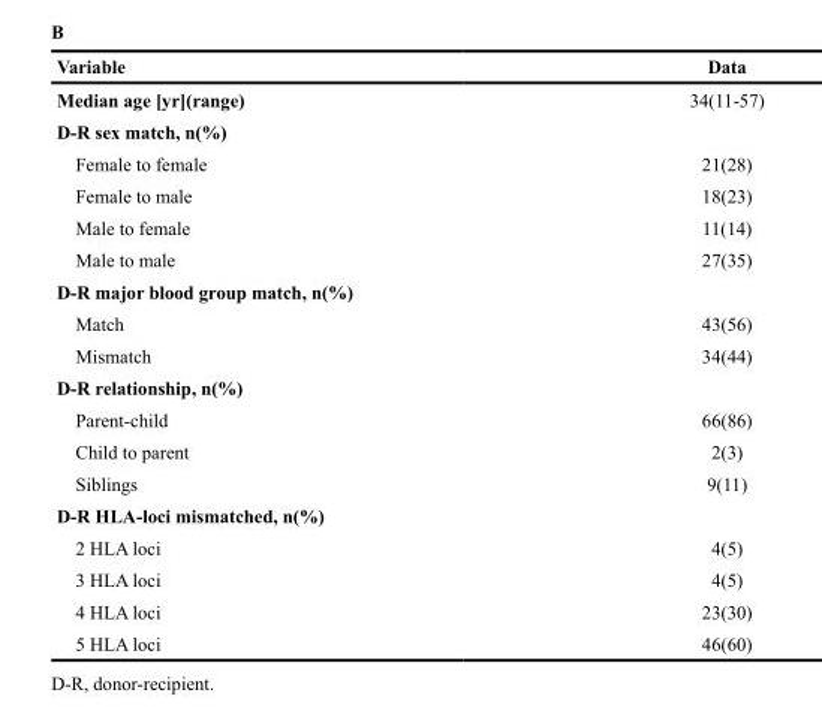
<table><thead><tr><td>Variable</td><td>Data</td></tr></thead><tbody><tr><td>Median age [yr](range)</td><td>34(11-57)</td></tr><tr><td colspan="2">D-R sex match, n(%)</td></tr><tr><td>Female to female</td><td>21(28)</td></tr><tr><td>Female to male</td><td>18(23)</td></tr><tr><td>Male to female</td><td>11(14)</td></tr><tr><td>Male to male</td><td>27(35)</td></tr><tr><td colspan="2">D-R major blood group match, n(%)</td></tr><tr><td>Match</td><td>43(56)</td></tr><tr><td>Mismatch</td><td>34(44)</td></tr><tr><td colspan="2">D-R relationship, n(%)</td></tr><tr><td>Parent-child</td><td>66(86)</td></tr><tr><td>Child to parent</td><td>2(3)</td></tr><tr><td>Siblings</td><td>9(11)</td></tr><tr><td colspan="2">D-R HLA-loci mismatched, n(%)</td></tr><tr><td>2 HLA loci</td><td>4(5)</td></tr><tr><td>3 HLA loci</td><td>4(5)</td></tr><tr><td>4 HLA loci</td><td>23(30)</td></tr><tr><td>5 HLA loci</td><td>46(60)</td></tr></tbody></table>